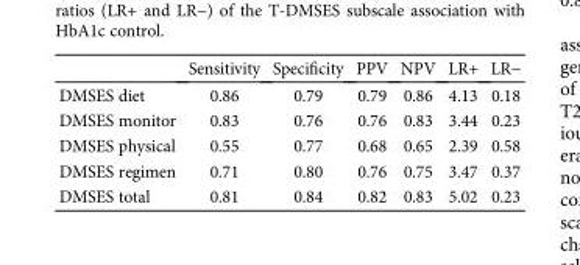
<table><thead><tr><td></td><td>Sensitivity</td><td>Specificity</td><td>PPV</td><td>NPV</td><td>LR+</td><td>LR−</td></tr></thead><tbody><tr><td>DMSES diet</td><td>0.86</td><td>0.79</td><td>0.79</td><td>0.86</td><td>4.13</td><td>0.18</td></tr><tr><td>DMSES monitor</td><td>0.83</td><td>0.76</td><td>0.76</td><td>0.83</td><td>3.44</td><td>0.23</td></tr><tr><td>DMSES physical</td><td>0.55</td><td>0.77</td><td>0.68</td><td>0.65</td><td>2.39</td><td>0.58</td></tr><tr><td>DMSES regimen</td><td>0.71</td><td>0.80</td><td>0.76</td><td>0.75</td><td>3.47</td><td>0.37</td></tr><tr><td>DMSES total</td><td>0.81</td><td>0.84</td><td>0.82</td><td>0.83</td><td>5.02</td><td>0.23</td></tr></tbody></table>